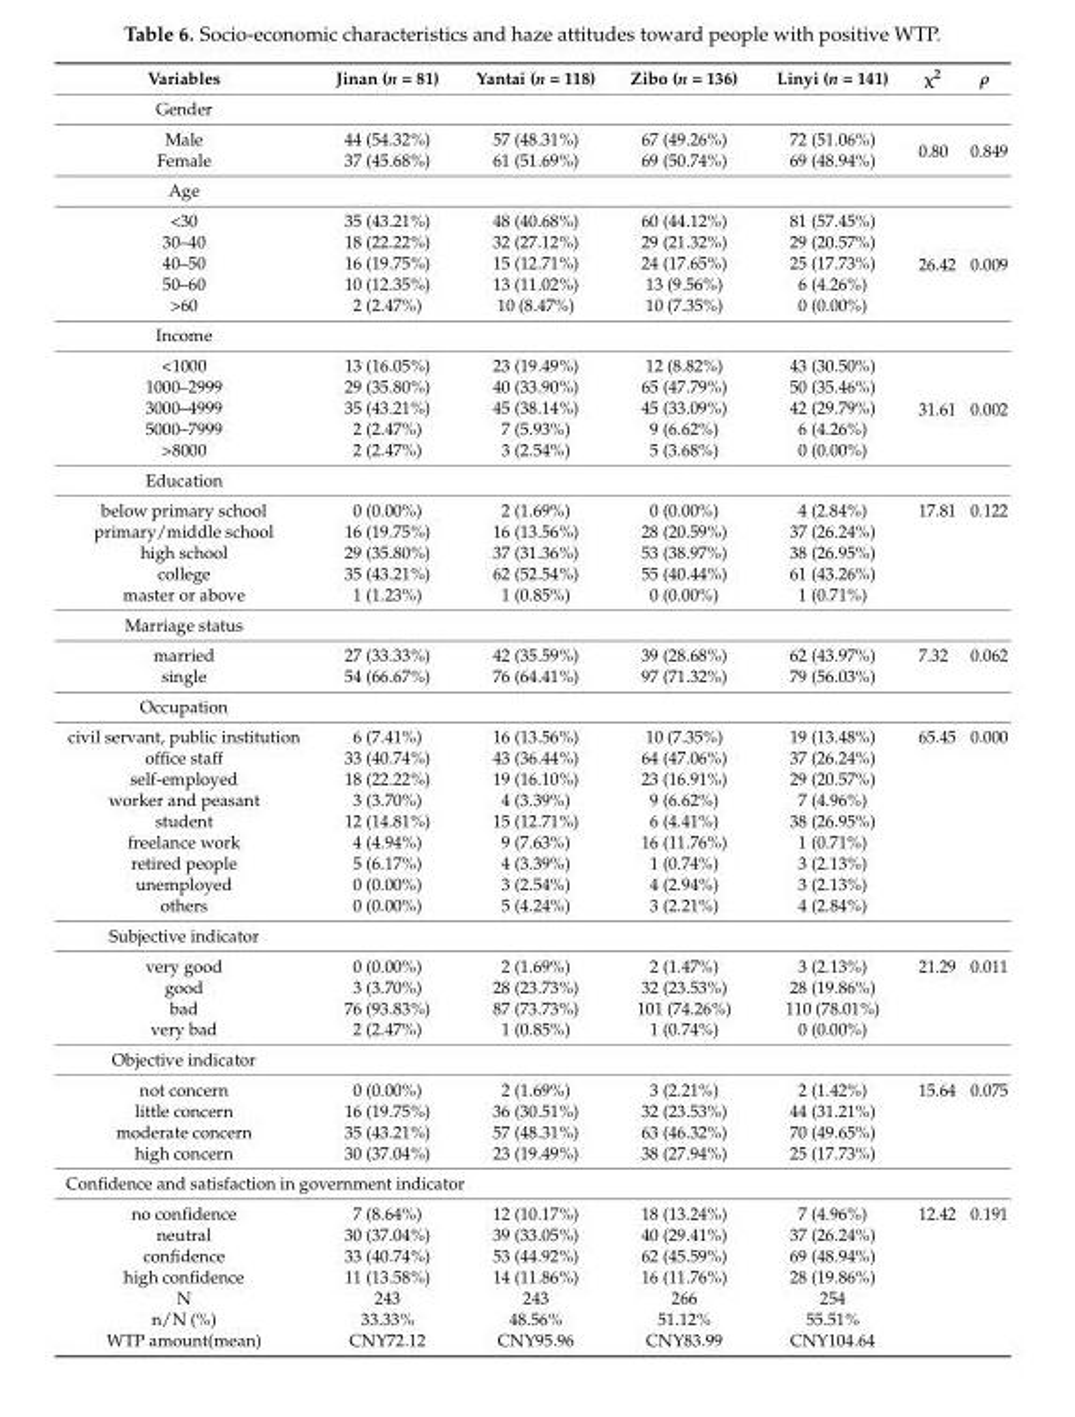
<table><thead><tr><td>Variables</td><td>Jinan (n = 81)</td><td>Yantai (n = 118)</td><td>Zibo (n = 136)</td><td>Linyi (n = 141)</td><td>χ<sup>2</sup></td><td>ρ</td></tr></thead><tbody><tr><td colspan="7">Gender</td></tr><tr><td>Male</td><td>44 (54.32%)</td><td>57 (48.31%)</td><td>67 (49.26%)</td><td>72 (51.06%)</td><td rowspan="2">0.80</td><td rowspan="2">0.849</td></tr><tr><td>Female</td><td>37 (45.68%)</td><td>61 (51.69%)</td><td>69 (50.74%)</td><td>69 (48.94%)</td></tr><tr><td colspan="7">Age</td></tr><tr><td>&lt;30</td><td>35 (43.21%)</td><td>48 (40.68%)</td><td>60 (44.12%)</td><td>81 (57.45%)</td><td rowspan="5">26.42</td><td rowspan="5">0.009</td></tr><tr><td>30–40</td><td>18 (22.22%)</td><td>32 (27.12%)</td><td>29 (21.32%)</td><td>29 (20.57%)</td></tr><tr><td>40–50</td><td>16 (19.75%)</td><td>15 (12.71%)</td><td>24 (17.65%)</td><td>25 (17.73%)</td></tr><tr><td>50–60</td><td>10 (12.35%)</td><td>13 (11.02%)</td><td>13 (9.56%)</td><td>6 (4.26%)</td></tr><tr><td>&gt;60</td><td>2 (2.47%)</td><td>10 (8.47%)</td><td>10 (7.35%)</td><td>0 (0.00%)</td></tr><tr><td colspan="7">Income</td></tr><tr><td>&lt;1000</td><td>13 (16.05%)</td><td>23 (19.49%)</td><td>12 (8.82%)</td><td>43 (30.50%)</td><td rowspan="5">31.61</td><td rowspan="5">0.002</td></tr><tr><td>1000–2999</td><td>29 (35.80%)</td><td>40 (33.90%)</td><td>65 (47.79%)</td><td>50 (35.46%)</td></tr><tr><td>3000–4999</td><td>35 (43.21%)</td><td>45 (38.14%)</td><td>45 (33.09%)</td><td>42 (29.79%)</td></tr><tr><td>5000–7999</td><td>2 (2.47%)</td><td>7 (5.93%)</td><td>9 (6.62%)</td><td>6 (4.26%)</td></tr><tr><td>&gt;8000</td><td>2 (2.47%)</td><td>3 (2.54%)</td><td>5 (3.68%)</td><td>0 (0.00%)</td></tr><tr><td colspan="7">Education</td></tr><tr><td>below primary school</td><td>0 (0.00%)</td><td>2 (1.69%)</td><td>0 (0.00%)</td><td>4 (2.84%)</td><td>17.81</td><td>0.122</td></tr><tr><td>primary/middle school</td><td>16 (19.75%)</td><td>16 (13.56%)</td><td>28 (20.59%)</td><td>37 (26.24%)</td><td></td><td></td></tr><tr><td>high school</td><td>29 (35.80%)</td><td>37 (31.36%)</td><td>53 (38.97%)</td><td>38 (26.95%)</td><td></td><td></td></tr><tr><td>college</td><td>35 (43.21%)</td><td>62 (52.54%)</td><td>55 (40.44%)</td><td>61 (43.26%)</td><td></td><td></td></tr><tr><td>master or above</td><td>1 (1.23%)</td><td>1 (0.85%)</td><td>0 (0.00%)</td><td>1 (0.71%)</td><td></td><td></td></tr><tr><td colspan="7">Marriage status</td></tr><tr><td>married</td><td>27 (33.33%)</td><td>42 (35.59%)</td><td>39 (28.68%)</td><td>62 (43.97%)</td><td>7.32</td><td>0.062</td></tr><tr><td>single</td><td>54 (66.67%)</td><td>76 (64.41%)</td><td>97 (71.32%)</td><td>79 (56.03%)</td><td></td><td></td></tr><tr><td colspan="7">Occupation</td></tr><tr><td>civil servant, public institution</td><td>6 (7.41%)</td><td>16 (13.56%)</td><td>10 (7.35%)</td><td>19 (13.48%)</td><td>65.45</td><td>0.000</td></tr><tr><td>office staff</td><td>33 (40.74%)</td><td>43 (36.44%)</td><td>64 (47.06%)</td><td>37 (26.24%)</td><td></td><td></td></tr><tr><td>self-employed</td><td>18 (22.22%)</td><td>19 (16.10%)</td><td>23 (16.91%)</td><td>29 (20.57%)</td><td></td><td></td></tr><tr><td>worker and peasant</td><td>3 (3.70%)</td><td>4 (3.39%)</td><td>9 (6.62%)</td><td>7 (4.96%)</td><td></td><td></td></tr><tr><td>student</td><td>12 (14.81%)</td><td>15 (12.71%)</td><td>6 (4.41%)</td><td>38 (26.95%)</td><td></td><td></td></tr><tr><td>freelance work</td><td>4 (4.94%)</td><td>9 (7.63%)</td><td>16 (11.76%)</td><td>1 (0.71%)</td><td></td><td></td></tr><tr><td>retired people</td><td>5 (6.17%)</td><td>4 (3.39%)</td><td>1 (0.74%)</td><td>3 (2.13%)</td><td></td><td></td></tr><tr><td>unemployed</td><td>0 (0.00%)</td><td>3 (2.54%)</td><td>4 (2.94%)</td><td>3 (2.13%)</td><td></td><td></td></tr><tr><td>others</td><td>0 (0.00%)</td><td>5 (4.24%)</td><td>3 (2.21%)</td><td>4 (2.84%)</td><td></td><td></td></tr><tr><td colspan="7">Subjective indicator</td></tr><tr><td>very good</td><td>0 (0.00%)</td><td>2 (1.69%)</td><td>2 (1.47%)</td><td>3 (2.13%)</td><td>21.29</td><td>0.011</td></tr><tr><td>good</td><td>3 (3.70%)</td><td>28 (23.73%)</td><td>32 (23.53%)</td><td>28 (19.86%)</td><td></td><td></td></tr><tr><td>bad</td><td>76 (93.83%)</td><td>87 (73.73%)</td><td>101 (74.26%)</td><td>110 (78.01%)</td><td></td><td></td></tr><tr><td>very bad</td><td>2 (2.47%)</td><td>1 (0.85%)</td><td>1 (0.74%)</td><td>0 (0.00%)</td><td></td><td></td></tr><tr><td colspan="7">Objective indicator</td></tr><tr><td>not concern</td><td>0 (0.00%)</td><td>2 (1.69%)</td><td>3 (2.21%)</td><td>2 (1.42%)</td><td>15.64</td><td>0.075</td></tr><tr><td>little concern</td><td>16 (19.75%)</td><td>36 (30.51%)</td><td>32 (23.53%)</td><td>44 (31.21%)</td><td></td><td></td></tr><tr><td>moderate concern</td><td>35 (43.21%)</td><td>57 (48.31%)</td><td>63 (46.32%)</td><td>70 (49.65%)</td><td></td><td></td></tr><tr><td>high concern</td><td>30 (37.04%)</td><td>23 (19.49%)</td><td>38 (27.94%)</td><td>25 (17.73%)</td><td></td><td></td></tr><tr><td colspan="7">Confidence and satisfaction in government indicator</td></tr><tr><td>no confidence</td><td>7 (8.64%)</td><td>12 (10.17%)</td><td>18 (13.24%)</td><td>7 (4.96%)</td><td>12.42</td><td>0.191</td></tr><tr><td>neutral</td><td>30 (37.04%)</td><td>39 (33.05%)</td><td>40 (29.41%)</td><td>37 (26.24%)</td><td></td><td></td></tr><tr><td>confidence</td><td>33 (40.74%)</td><td>53 (44.92%)</td><td>62 (45.59%)</td><td>69 (48.94%)</td><td></td><td></td></tr><tr><td>high confidence</td><td>11 (13.58%)</td><td>14 (11.86%)</td><td>16 (11.76%)</td><td>28 (19.86%)</td><td></td><td></td></tr><tr><td>N</td><td>243</td><td>243</td><td>266</td><td>254</td><td></td><td></td></tr><tr><td>n/N (%)</td><td>33.33%</td><td>48.56%</td><td>51.12%</td><td>55.51%</td><td></td><td></td></tr><tr><td>WTP amount(mean)</td><td>CNY72.12</td><td>CNY95.96</td><td>CNY83.99</td><td>CNY104.64</td><td></td><td></td></tr></tbody></table>